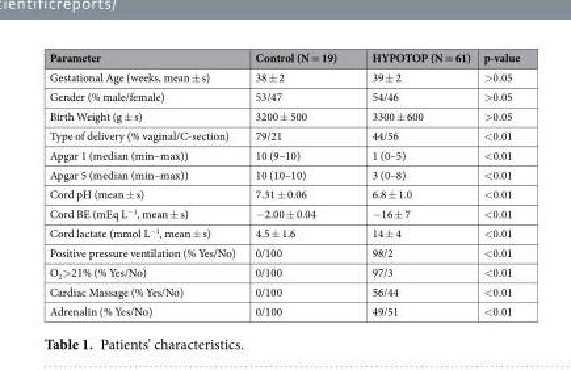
<table><thead><tr><td>Parameter</td><td>Control (N = 19)</td><td>HYPOTOP (N = 61)</td><td>p-value</td></tr></thead><tbody><tr><td>Gestational Age (weeks, mean ± s)</td><td>38 ± 2</td><td>39 ± 2</td><td>&gt;0.05</td></tr><tr><td>Gender (% male/female)</td><td>53/47</td><td>54/46</td><td>&gt;0.05</td></tr><tr><td>Birth Weight (g ± s)</td><td>3200 ± 500</td><td>3300 ± 600</td><td>&gt;0.05</td></tr><tr><td>Type of delivery (% vaginal/C-section)</td><td>79/21</td><td>44/56</td><td>&lt;0.01</td></tr><tr><td>Apgar 1 (median (min–max))</td><td>10 (9–10)</td><td>1 (0–5)</td><td>&lt;0.01</td></tr><tr><td>Apgar 5 (median (min–max))</td><td>10 (10–10)</td><td>3 (0–8)</td><td>&lt;0.01</td></tr><tr><td>Cord pH (mean ± s)</td><td>7.31 ± 0.06</td><td>6.8 ± 1.0</td><td>&lt;0.01</td></tr><tr><td>Cord BE (mEq L<sup>−1</sup>, mean ± s)</td><td>−2.00 ± 0.04</td><td>−16 ± 7</td><td>&lt;0.01</td></tr><tr><td>Cord lactate (mmol L<sup>−1</sup>, mean ± s)</td><td>4.5 ± 1.6</td><td>14 ± 4</td><td>&lt;0.01</td></tr><tr><td>Positive pressure ventilation (% Yes/No)</td><td>0/100</td><td>98/2</td><td>&lt;0.01</td></tr><tr><td>O<sub>2</sub>&gt;21% (% Yes/No)</td><td>0/100</td><td>97/3</td><td>&lt;0.01</td></tr><tr><td>Cardiac Massage (% Yes/No)</td><td>0/100</td><td>56/44</td><td>&lt;0.01</td></tr><tr><td>Adrenalin (% Yes/No)</td><td>0/100</td><td>49/51</td><td>&lt;0.01</td></tr></tbody></table>